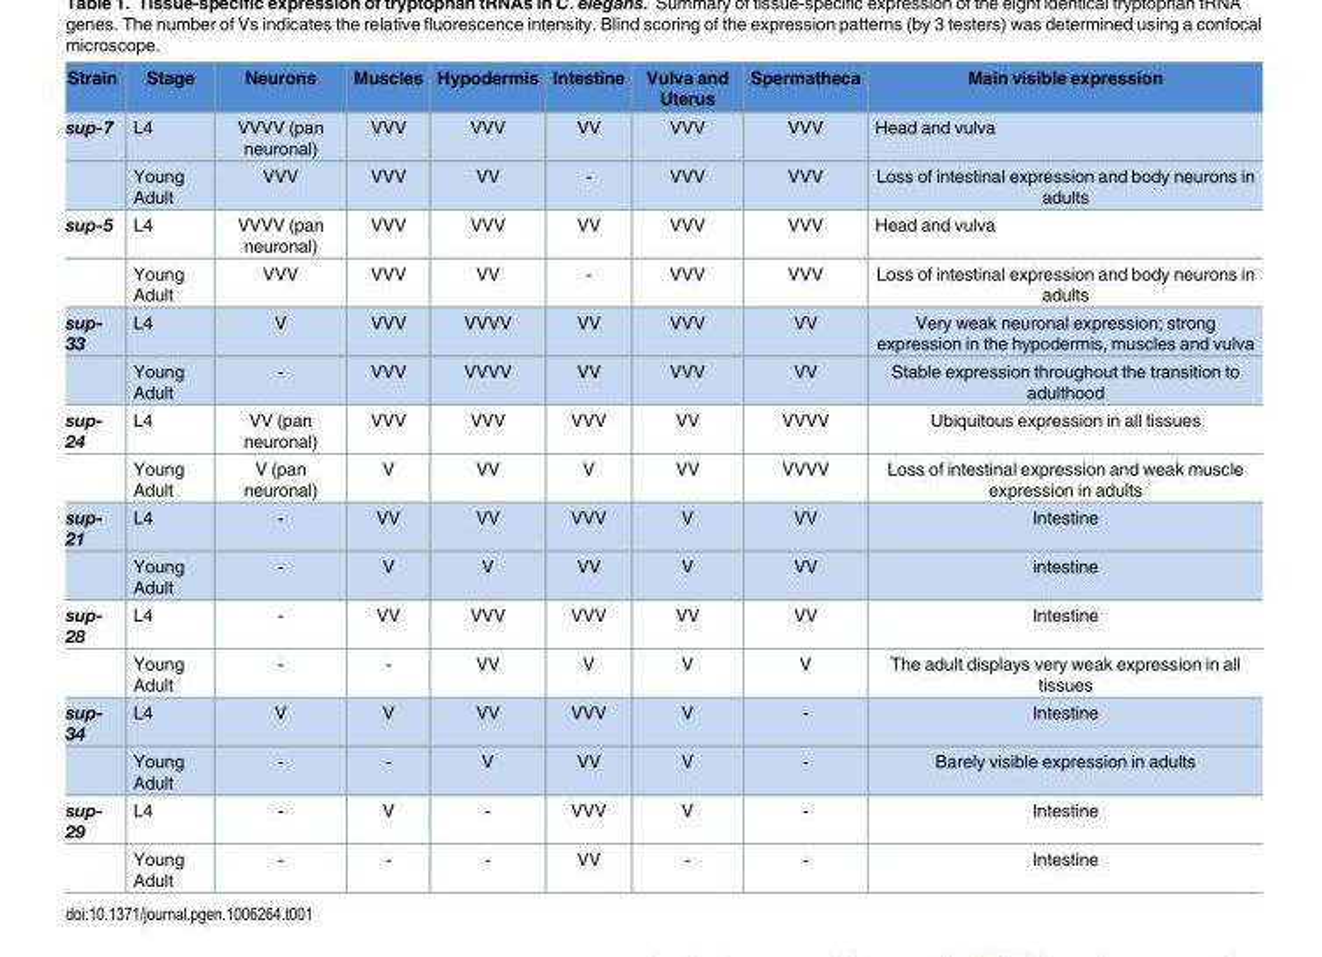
<table><thead><tr><td>Strain</td><td>Stage</td><td>Neurons</td><td>Muscles</td><td>Hypodermis</td><td>Intestine</td><td>Vulva and Uterus</td><td>Spermatheca</td><td>Main visible expression</td></tr></thead><tbody><tr><td rowspan="2">sup-7</td><td>L4</td><td>VVVV (pan neuronal)</td><td>VVV</td><td>VVV</td><td>VV</td><td>VVV</td><td>VVV</td><td>Head and vulva</td></tr><tr><td>Young Adult</td><td>VVV</td><td>VVV</td><td>VV</td><td>-</td><td>VVV</td><td>VVV</td><td>Loss of intestinal expression and body neurons in adults</td></tr><tr><td rowspan="2">sup-5</td><td>L4</td><td>VVVV (pan neuronal)</td><td>VVV</td><td>VVV</td><td>VV</td><td>VVV</td><td>VVV</td><td>Head and vulva</td></tr><tr><td>Young Adult</td><td>VVV</td><td>VVV</td><td>VV</td><td>-</td><td>VVV</td><td>VVV</td><td>Loss of intestinal expression and body neurons in adults</td></tr><tr><td rowspan="2">sup- 33</td><td>L4</td><td>V</td><td>VVV</td><td>VVVV</td><td>VV</td><td>VVV</td><td>VV</td><td>Very weak neuronal expression; strong expression in the hypodermis, muscles and vulva</td></tr><tr><td>Young Adult</td><td>-</td><td>VVV</td><td>VVVV</td><td>VV</td><td>VVV</td><td>VV</td><td>Stable expression throughout the transition to adulthood</td></tr><tr><td rowspan="2">sup- 24</td><td>L4</td><td>VV (pan neuronal)</td><td>VVV</td><td>VVV</td><td>VVV</td><td>VV</td><td>VVVV</td><td>Ubiquitous expression in all tissues</td></tr><tr><td>Young Adult</td><td>V (pan neuronal)</td><td>V</td><td>VV</td><td>V</td><td>VV</td><td>VVVV</td><td>Loss of intestinal expression and weak muscle expression in adults</td></tr><tr><td rowspan="2">sup- 21</td><td>L4</td><td>-</td><td>VV</td><td>VV</td><td>VVV</td><td>V</td><td>VV</td><td>Intestine</td></tr><tr><td>Young Adult</td><td>-</td><td>V</td><td>V</td><td>VV</td><td>V</td><td>VV</td><td>intestine</td></tr><tr><td rowspan="2">sup- 28</td><td>L4</td><td>-</td><td>VV</td><td>VVV</td><td>VVV</td><td>VV</td><td>VV</td><td>Intestine</td></tr><tr><td>Young Adult</td><td>-</td><td>-</td><td>VV</td><td>V</td><td>V</td><td>V</td><td>The adult displays very weak expression in all tissues</td></tr><tr><td rowspan="2">sup- 34</td><td>L4</td><td>V</td><td>V</td><td>VV</td><td>VVV</td><td>V</td><td>-</td><td>Intestine</td></tr><tr><td>Young Adult</td><td>-</td><td>-</td><td>V</td><td>VV</td><td>V</td><td>-</td><td>Barely visible expression in adults</td></tr><tr><td rowspan="2">sup- 29</td><td>L4</td><td>-</td><td>V</td><td>-</td><td>VVV</td><td>V</td><td>-</td><td>Intestine</td></tr><tr><td>Young Adult</td><td>-</td><td>-</td><td>-</td><td>VV</td><td>-</td><td>-</td><td>Intestine</td></tr></tbody></table>